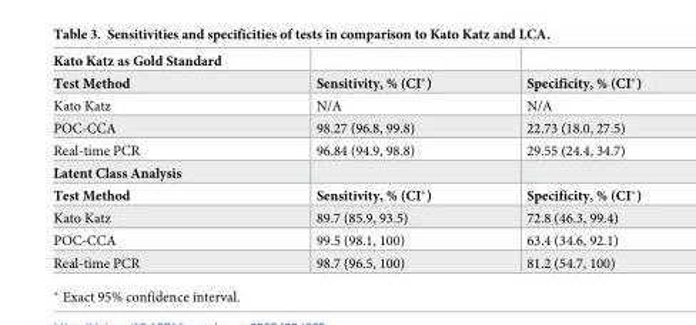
<table><tbody><tr><td colspan="3">Kato Katz as Gold Standard</td></tr><tr><td>Test Method</td><td>Sensitivity, % (CI*)</td><td>Specificity, % (CI*)</td></tr><tr><td>Kato Katz</td><td>N/A</td><td>N/A</td></tr><tr><td>POC-CCA</td><td>98.27 (96.8, 99.8)</td><td>22.73 (18.0, 27.5)</td></tr><tr><td>Real-time PCR</td><td>96.84 (94.9, 98.8)</td><td>29.55 (24.4, 34.7)</td></tr><tr><td colspan="3">Latent Class Analysis</td></tr><tr><td>Test Method</td><td>Sensitivity, % (CI*)</td><td>Specificity, % (CI*)</td></tr><tr><td>Kato Katz</td><td>89.7 (85.9, 93.5)</td><td>72.8 (46.3, 99.4)</td></tr><tr><td>POC-CCA</td><td>99.5 (98.1, 100)</td><td>63.4 (34.6, 92.1)</td></tr><tr><td>Real-time PCR</td><td>98.7 (96.5, 100)</td><td>81.2 (54.7, 100)</td></tr></tbody></table>